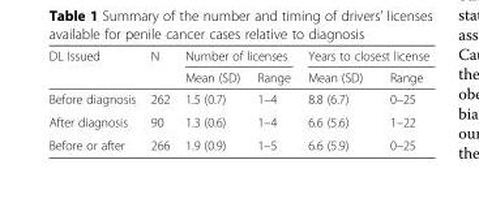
<table><thead><tr><td rowspan="2">DL Issued</td><td rowspan="2">N</td><td colspan="2">Number of licenses</td><td colspan="2">Years to closest license</td></tr><tr><td>Mean (SD)</td><td>Range</td><td>Mean (SD)</td><td>Range</td></tr></thead><tbody><tr><td>Before diagnosis</td><td>262</td><td>1.5 (0.7)</td><td>1–4</td><td>8.8 (6.7)</td><td>0–25</td></tr><tr><td>After diagnosis</td><td>90</td><td>1.3 (0.6)</td><td>1–4</td><td>6.6 (5.6)</td><td>1–22</td></tr><tr><td>Before or after</td><td>266</td><td>1.9 (0.9)</td><td>1–5</td><td>6.6 (5.9)</td><td>0–25</td></tr></tbody></table>